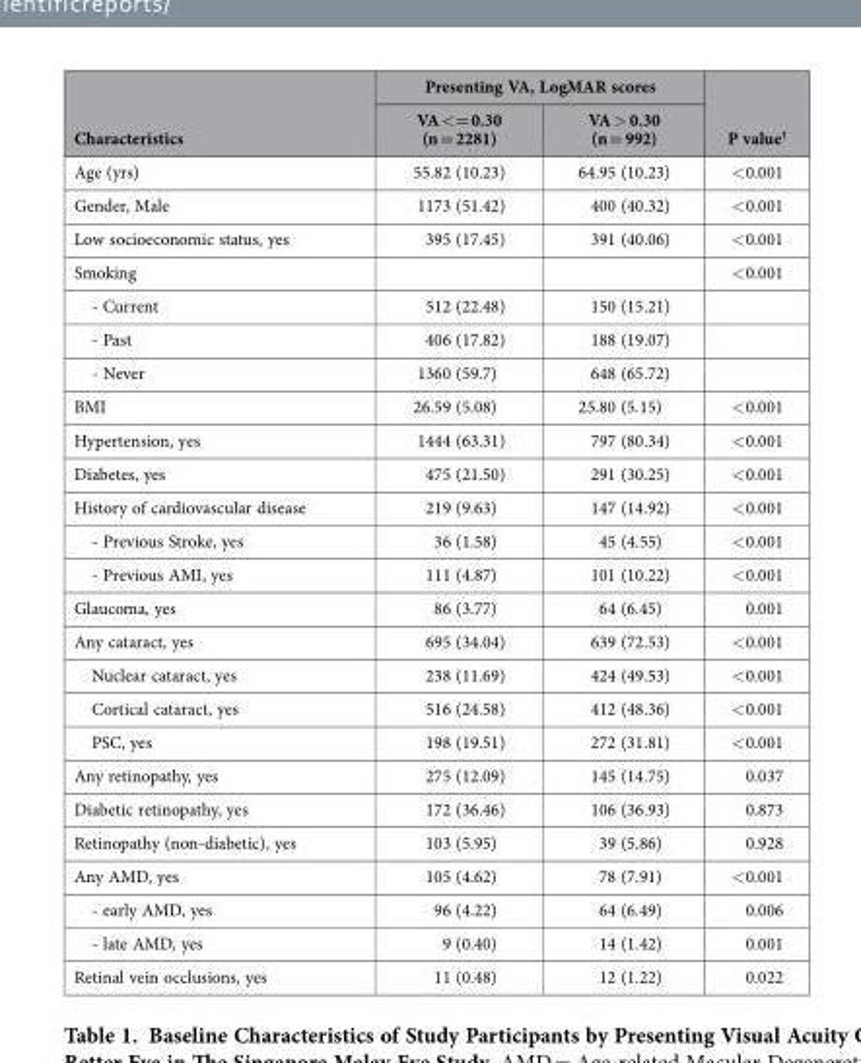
<table><thead><tr><td rowspan="2">Characteristics</td><td colspan="2">Presenting VA, LogMAR scores</td><td rowspan="2">P value†</td></tr><tr><td>VA &lt; = 0.30 (n = 2281)</td><td>VA &gt; 0.30 (n = 992)</td></tr></thead><tbody><tr><td>Age (yrs)</td><td>55.82 (10.23)</td><td>64.95 (10.23)</td><td>&lt; 0.001</td></tr><tr><td>Gender, Male</td><td>1173 (51.42)</td><td>400 (40.32)</td><td>&lt; 0.001</td></tr><tr><td>Low socioeconomic status, yes</td><td>395 (17.45)</td><td>391 (40.06)</td><td>&lt; 0.001</td></tr><tr><td>Smoking</td><td></td><td></td><td>&lt; 0.001</td></tr><tr><td>- Current</td><td>512 (22.48)</td><td>150 (15.21)</td><td></td></tr><tr><td>- Past</td><td>406 (17.82)</td><td>188 (19.07)</td><td></td></tr><tr><td>- Never</td><td>1360 (59.7)</td><td>648 (65.72)</td><td></td></tr><tr><td>BMI</td><td>26.59 (5.08)</td><td>25.80 (5.15)</td><td>&lt; 0.001</td></tr><tr><td>Hypertension, yes</td><td>1444 (63.31)</td><td>797 (80.34)</td><td>&lt; 0.001</td></tr><tr><td>Diabetes, yes</td><td>475 (21.50)</td><td>291 (30.25)</td><td>&lt; 0.001</td></tr><tr><td>History of cardiovascular disease</td><td>219 (9.63)</td><td>147 (14.92)</td><td>&lt; 0.001</td></tr><tr><td>- Previous Stroke, yes</td><td>36 (1.58)</td><td>45 (4.55)</td><td>&lt; 0.001</td></tr><tr><td>- Previous AMI, yes</td><td>111 (4.87)</td><td>101 (10.22)</td><td>&lt; 0.001</td></tr><tr><td>Glaucoma, yes</td><td>86 (3.77)</td><td>64 (6.45)</td><td>0.001</td></tr><tr><td>Any cataract, yes</td><td>695 (34.04)</td><td>639 (72.53)</td><td>&lt; 0.001</td></tr><tr><td>Nuclear cataract, yes</td><td>238 (11.69)</td><td>424 (49.53)</td><td>&lt; 0.001</td></tr><tr><td>Cortical cataract, yes</td><td>516 (24.58)</td><td>412 (48.36)</td><td>&lt; 0.001</td></tr><tr><td>PSC, yes</td><td>198 (19.51)</td><td>272 (31.81)</td><td>&lt; 0.001</td></tr><tr><td>Any retinopathy, yes</td><td>275 (12.09)</td><td>145 (14.75)</td><td>0.037</td></tr><tr><td>Diabetic retinopathy, yes</td><td>172 (36.46)</td><td>106 (36.93)</td><td>0.873</td></tr><tr><td>Retinopathy (non-diabetic), yes</td><td>103 (5.95)</td><td>39 (5.86)</td><td>0.928</td></tr><tr><td>Any AMD, yes</td><td>105 (4.62)</td><td>78 (7.91)</td><td>&lt; 0.001</td></tr><tr><td>- early AMD, yes</td><td>96 (4.22)</td><td>64 (6.49)</td><td>0.006</td></tr><tr><td>- late AMD, yes</td><td>9 (0.40)</td><td>14 (1.42)</td><td>0.001</td></tr><tr><td>Retinal vein occlusions, yes</td><td>11 (0.48)</td><td>12 (1.22)</td><td>0.022</td></tr></tbody></table>